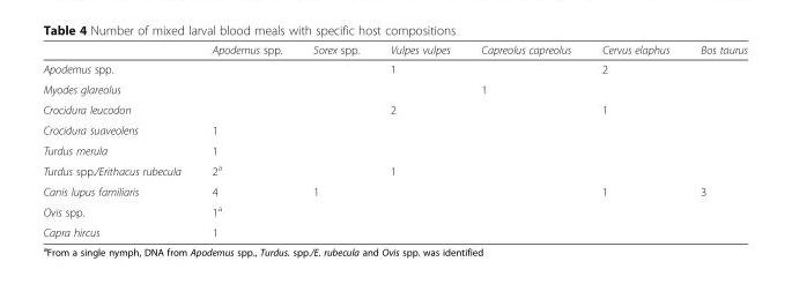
<table><thead><tr><td></td><td>Apodemus spp.</td><td>Sorex spp.</td><td>Vulpes vulpes</td><td>Capreolus capreolus</td><td>Cervus elaphus</td><td>Bos taurus</td></tr></thead><tbody><tr><td>Apodemus spp.</td><td></td><td></td><td>1</td><td></td><td>2</td><td></td></tr><tr><td>Myodes glareolus</td><td></td><td></td><td></td><td>1</td><td></td><td></td></tr><tr><td>Crocidura leucodon</td><td></td><td></td><td>2</td><td></td><td>1</td><td></td></tr><tr><td>Crocidura suaveolens</td><td>1</td><td></td><td></td><td></td><td></td><td></td></tr><tr><td>Turdus merula</td><td>1</td><td></td><td></td><td></td><td></td><td></td></tr><tr><td>Turdus spp./Erithacus rubecula</td><td>2<sup>a</sup></td><td></td><td>1</td><td></td><td></td><td></td></tr><tr><td>Canis lupus familiaris</td><td>4</td><td>1</td><td></td><td></td><td>1</td><td>3</td></tr><tr><td>Ovis spp.</td><td>1<sup>a</sup></td><td></td><td></td><td></td><td></td><td></td></tr><tr><td>Capra hircus</td><td>1</td><td></td><td></td><td></td><td></td><td></td></tr></tbody></table>